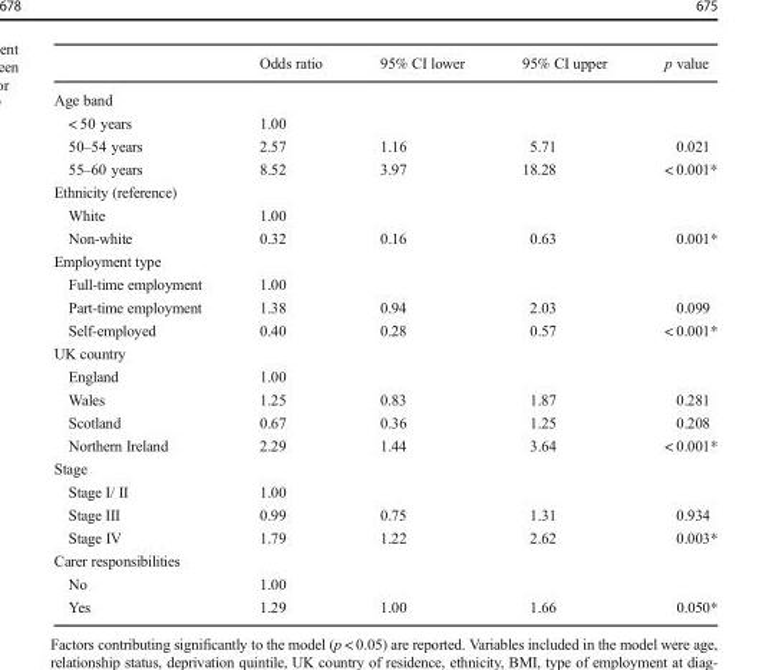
<table><thead><tr><td></td><td>Odds ratio</td><td>95% CI lower</td><td>95% CI upper</td><td>p value</td></tr></thead><tbody><tr><td colspan="5">Age band</td></tr><tr><td>&lt; 50 years</td><td>1.00</td><td></td><td></td><td></td></tr><tr><td>50–54 years</td><td>2.57</td><td>1.16</td><td>5.71</td><td>0.021</td></tr><tr><td>55–60 years</td><td>8.52</td><td>3.97</td><td>18.28</td><td>&lt; 0.001*</td></tr><tr><td colspan="5">Ethnicity (reference)</td></tr><tr><td>White</td><td>1.00</td><td></td><td></td><td></td></tr><tr><td>Non-white</td><td>0.32</td><td>0.16</td><td>0.63</td><td>0.001*</td></tr><tr><td colspan="5">Employment type</td></tr><tr><td>Full-time employment</td><td>1.00</td><td></td><td></td><td></td></tr><tr><td>Part-time employment</td><td>1.38</td><td>0.94</td><td>2.03</td><td>0.099</td></tr><tr><td>Self-employed</td><td>0.40</td><td>0.28</td><td>0.57</td><td>&lt; 0.001*</td></tr><tr><td colspan="5">UK country</td></tr><tr><td>England</td><td>1.00</td><td></td><td></td><td></td></tr><tr><td>Wales</td><td>1.25</td><td>0.83</td><td>1.87</td><td>0.281</td></tr><tr><td>Scotland</td><td>0.67</td><td>0.36</td><td>1.25</td><td>0.208</td></tr><tr><td>Northern Ireland</td><td>2.29</td><td>1.44</td><td>3.64</td><td>&lt; 0.001*</td></tr><tr><td colspan="5">Stage</td></tr><tr><td>Stage I/ II</td><td>1.00</td><td></td><td></td><td></td></tr><tr><td>Stage III</td><td>0.99</td><td>0.75</td><td>1.31</td><td>0.934</td></tr><tr><td>Stage IV</td><td>1.79</td><td>1.22</td><td>2.62</td><td>0.003*</td></tr><tr><td colspan="5">Carer responsibilities</td></tr><tr><td>No</td><td>1.00</td><td></td><td></td><td></td></tr><tr><td>Yes</td><td>1.29</td><td>1.00</td><td>1.66</td><td>0.050*</td></tr></tbody></table>